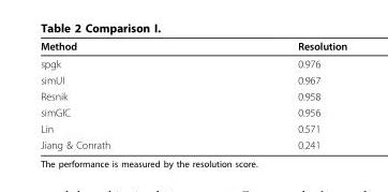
<table><thead><tr><td>Method</td><td>Resolution</td></tr></thead><tbody><tr><td>spgk</td><td>0.976</td></tr><tr><td>simUI</td><td>0.967</td></tr><tr><td>Resnik</td><td>0.958</td></tr><tr><td>simGIC</td><td>0.956</td></tr><tr><td>Lin</td><td>0.571</td></tr><tr><td>Jiang &amp; Conrath</td><td>0.241</td></tr></tbody></table>